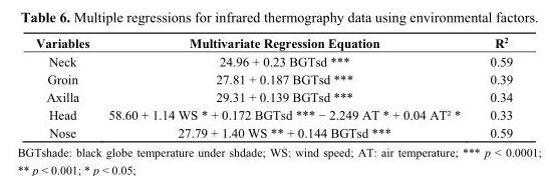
<table><thead><tr><td>Variables</td><td>Multivariate Regression Equation</td><td>R<sup>2</sup></td></tr></thead><tbody><tr><td>Neck</td><td>24.96 + 0.23 BGTsd ***</td><td>0.59</td></tr><tr><td>Groin</td><td>27.81 + 0.187 BGTsd ***</td><td>0.39</td></tr><tr><td>Axilla</td><td>29.31 + 0.139 BGTsd ***</td><td>0.34</td></tr><tr><td>Head</td><td>58.60 + 1.14 WS * + 0.172 BGTsd *** − 2.249 AT * + 0.04 AT² *</td><td>0.33</td></tr><tr><td>Nose</td><td>27.79 + 1.40 WS ** + 0.144 BGTsd ***</td><td>0.59</td></tr></tbody></table>